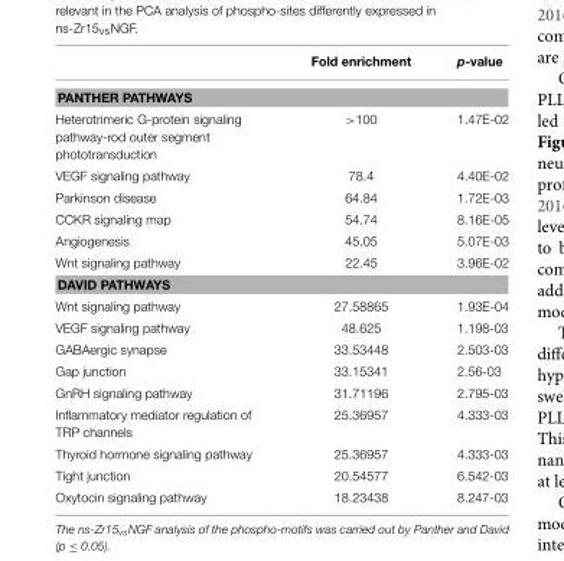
<table><thead><tr><td></td><td>Fold enrichment</td><td>p-value</td></tr></thead><tbody><tr><td colspan="3">PANTHER PATHWAYS</td></tr><tr><td>Heterotrimeric G-protein signaling pathway-rod outer segment phototransduction</td><td>&gt;100</td><td>1.47E-02</td></tr><tr><td>VEGF signaling pathway</td><td>78.4</td><td>4.40E-02</td></tr><tr><td>Parkinson disease</td><td>64.84</td><td>1.72E-03</td></tr><tr><td>CCKR signaling map</td><td>54.74</td><td>8.16E-05</td></tr><tr><td>Angiogenesis</td><td>45.05</td><td>5.07E-03</td></tr><tr><td>Wnt signaling pathway</td><td>22.45</td><td>3.96E-02</td></tr><tr><td colspan="3">DAVID PATHWAYS</td></tr><tr><td>Wnt signaling pathway</td><td>27.58865</td><td>1.93E-04</td></tr><tr><td>VEGF signaling pathway</td><td>48.625</td><td>1.198-03</td></tr><tr><td>GABAergic synapse</td><td>33.53448</td><td>2.503-03</td></tr><tr><td>Gap junction</td><td>33.15341</td><td>2.56-03</td></tr><tr><td>GnRH signaling pathway</td><td>31.71196</td><td>2.795-03</td></tr><tr><td>Inflammatory mediator regulation of TRP channels</td><td>25.36957</td><td>4.333-03</td></tr><tr><td>Thyroid hormone signaling pathway</td><td>25.36957</td><td>4.333-03</td></tr><tr><td>Tight junction</td><td>20.54577</td><td>6.542-03</td></tr><tr><td>Oxytocin signaling pathway</td><td>18.23438</td><td>8.247-03</td></tr></tbody></table>